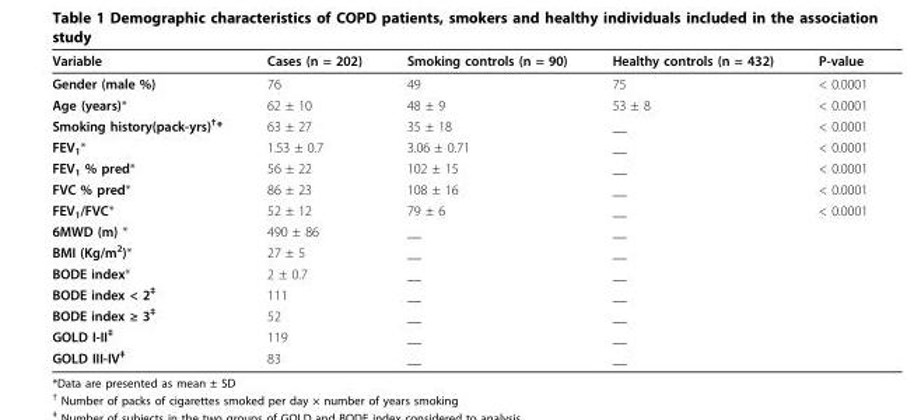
<table><thead><tr><td>Variable</td><td>Cases (n = 202)</td><td>Smoking controls (n = 90)</td><td>Healthy controls (n = 432)</td><td>P-value</td></tr></thead><tbody><tr><td>Gender (male %)</td><td>76</td><td>49</td><td>75</td><td>&lt; 0.0001</td></tr><tr><td>Age (years)*</td><td>62 ± 10</td><td>48 ± 9</td><td>53 ± 8</td><td>&lt; 0.0001</td></tr><tr><td>Smoking history(pack-yrs)<sup>†</sup>*</td><td>63 ± 27</td><td>35 ± 18</td><td>__</td><td>&lt; 0.0001</td></tr><tr><td>FEV<sub>1</sub>*</td><td>1.53 ± 0.7</td><td>3.06 ± 0.71</td><td>__</td><td>&lt; 0.0001</td></tr><tr><td>FEV<sub>1</sub> % pred*</td><td>56 ± 22</td><td>102 ± 15</td><td>__</td><td>&lt; 0.0001</td></tr><tr><td>FVC % pred*</td><td>86 ± 23</td><td>108 ± 16</td><td>__</td><td>&lt; 0.0001</td></tr><tr><td>FEV<sub>1</sub>/FVC*</td><td>52 ± 12</td><td>79 ± 6</td><td>__</td><td>&lt; 0.0001</td></tr><tr><td>6MWD (m) *</td><td>490 ± 86</td><td>__</td><td>__</td><td></td></tr><tr><td>BMI (Kg/m<sup>2</sup>)*</td><td>27 ± 5</td><td>__</td><td>__</td><td></td></tr><tr><td>BODE index*</td><td>2 ± 0.7</td><td>__</td><td>__</td><td></td></tr><tr><td>BODE index &lt; 2<sup>‡</sup></td><td>111</td><td>__</td><td>__</td><td></td></tr><tr><td>BODE index ≥ 3<sup>‡</sup></td><td>52</td><td>__</td><td>__</td><td></td></tr><tr><td>GOLD I-II<sup>‡</sup></td><td>119</td><td>__</td><td>__</td><td></td></tr><tr><td>GOLD III-IV<sup>‡</sup></td><td>83</td><td>__</td><td>__</td><td></td></tr></tbody></table>